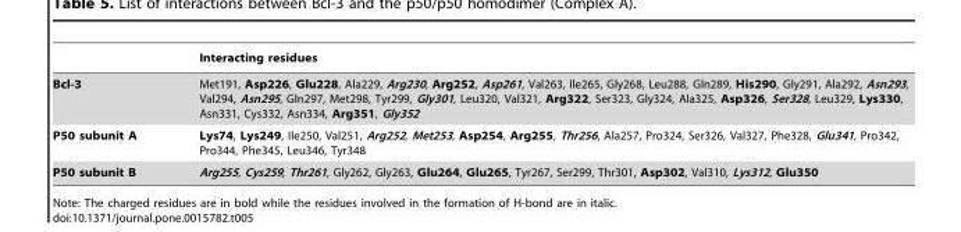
<table><thead><tr><td></td><td>Interacting residues</td></tr></thead><tbody><tr><td>Bcl-3</td><td>Met191, Asp226, Glu228, Ala229, Arg230, Arg252, Asp261, Val263, Ile265, Gly268, Leu288, Gln289, His290, Gly291, Ala292, Asn293, Val294, Asn295, Gln297, Met298, Tyr299, Gly301, Leu320, Val321, Arg322, Ser323, Gly324, Ala325, Asp326, Ser328, Leu329, Lys330, Asn331, Cys332, Asn334, Arg351, Gly352</td></tr><tr><td>P50 subunit A</td><td>Lys74, Lys249, Ile250, Val251, Arg252, Met253, Asp254, Arg255, Thr256, Ala257, Pro324, Ser326, Val327, Phe328, Glu341, Pro342, Pro344, Phe345, Leu346, Tyr348</td></tr><tr><td>P50 subunit B</td><td>Arg255, Cys259, Thr261, Gly262, Gly263, Glu264, Glu265, Tyr267, Ser299, Thr301, Asp302, Val310, Lys312, Glu350</td></tr></tbody></table>